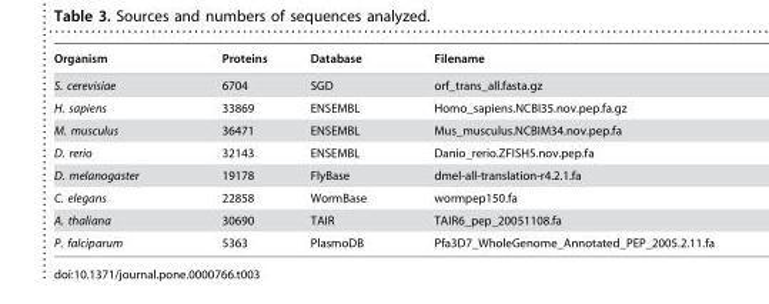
<table><thead><tr><td>Organism</td><td>Proteins</td><td>Database</td><td>Filename</td></tr></thead><tbody><tr><td>S. cerevisiae</td><td>6704</td><td>SGD</td><td>orf_trans_all.fasta.gz</td></tr><tr><td>H. sapiens</td><td>33869</td><td>ENSEMBL</td><td>Homo_sapiens.NCBI35.nov.pep.fa.gz</td></tr><tr><td>M. musculus</td><td>36471</td><td>ENSEMBL</td><td>Mus_musculus.NCBIM34.nov.pep.fa</td></tr><tr><td>D. rerio</td><td>32143</td><td>ENSEMBL</td><td>Danio_rerio.ZFISH5.nov.pep.fa</td></tr><tr><td>D. melanogaster</td><td>19178</td><td>FlyBase</td><td>dmel-all-translation-r4.2.1.fa</td></tr><tr><td>C. elegans</td><td>22858</td><td>WormBase</td><td>wormpep150.fa</td></tr><tr><td>A. thaliana</td><td>30690</td><td>TAIR</td><td>TAIR6_pep_20051108.fa</td></tr><tr><td>P. falciparum</td><td>5363</td><td>PlasmoDB</td><td>Pfa3D7_WholeGenome_Annotated_PEP_2005.2.11.fa</td></tr></tbody></table>